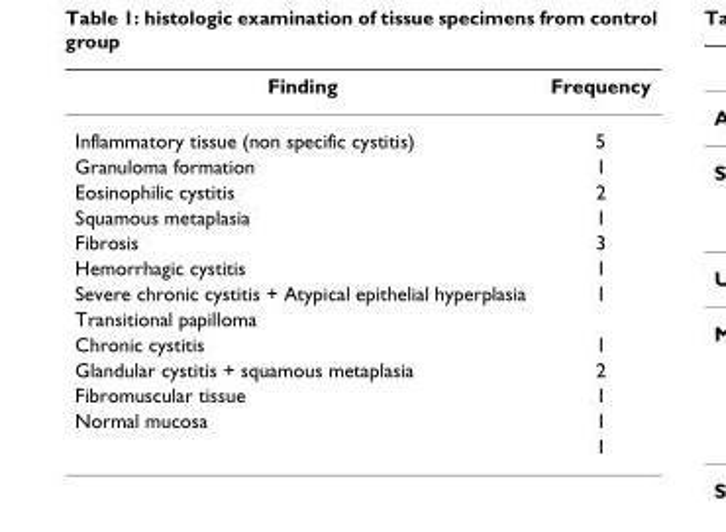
<table><thead><tr><td>Finding</td><td>Frequency</td></tr></thead><tbody><tr><td>Inflammatory tissue (non specific cystitis)</td><td>5</td></tr><tr><td>Granuloma formation</td><td>1</td></tr><tr><td>Eosinophilic cystitis</td><td>2</td></tr><tr><td>Squamous metaplasia</td><td>1</td></tr><tr><td>Fibrosis</td><td>3</td></tr><tr><td>Hemorrhagic cystitis</td><td>1</td></tr><tr><td>Severe chronic cystitis + Atypical epithelial hyperplasia</td><td>1</td></tr><tr><td colspan="2">Transitional papilloma</td></tr><tr><td>Chronic cystitis</td><td>1</td></tr><tr><td>Glandular cystitis + squamous metaplasia</td><td>2</td></tr><tr><td>Fibromuscular tissue</td><td>1</td></tr><tr><td rowspan="2">Normal mucosa</td><td>1</td></tr><tr><td>1</td></tr></tbody></table>